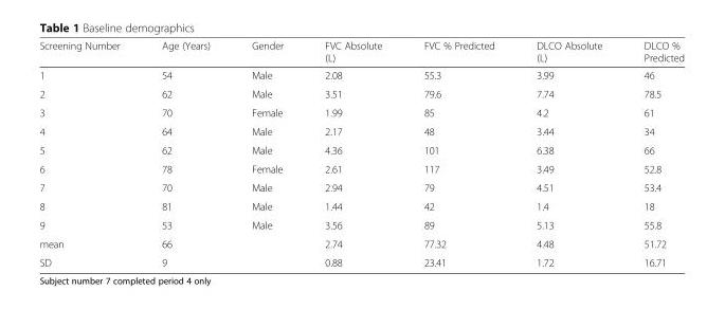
<table><thead><tr><td>Screening Number</td><td>Age (Years)</td><td>Gender</td><td>FVC Absolute (L)</td><td>FVC % Predicted</td><td>DLCO Absolute (L)</td><td>DLCO % Predicted</td></tr></thead><tbody><tr><td>1</td><td>54</td><td>Male</td><td>2.08</td><td>55.3</td><td>3.99</td><td>46</td></tr><tr><td>2</td><td>62</td><td>Male</td><td>3.51</td><td>79.6</td><td>7.74</td><td>78.5</td></tr><tr><td>3</td><td>70</td><td>Female</td><td>1.99</td><td>85</td><td>4.2</td><td>61</td></tr><tr><td>4</td><td>64</td><td>Male</td><td>2.17</td><td>48</td><td>3.44</td><td>34</td></tr><tr><td>5</td><td>62</td><td>Male</td><td>4.36</td><td>101</td><td>6.38</td><td>66</td></tr><tr><td>6</td><td>78</td><td>Female</td><td>2.61</td><td>117</td><td>3.49</td><td>52.8</td></tr><tr><td>7</td><td>70</td><td>Male</td><td>2.94</td><td>79</td><td>4.51</td><td>53.4</td></tr><tr><td>8</td><td>81</td><td>Male</td><td>1.44</td><td>42</td><td>1.4</td><td>18</td></tr><tr><td>9</td><td>53</td><td>Male</td><td>3.56</td><td>89</td><td>5.13</td><td>55.8</td></tr><tr><td>mean</td><td>66</td><td></td><td>2.74</td><td>77.32</td><td>4.48</td><td>51.72</td></tr><tr><td>SD</td><td>9</td><td></td><td>0.88</td><td>23.41</td><td>1.72</td><td>16.71</td></tr></tbody></table>